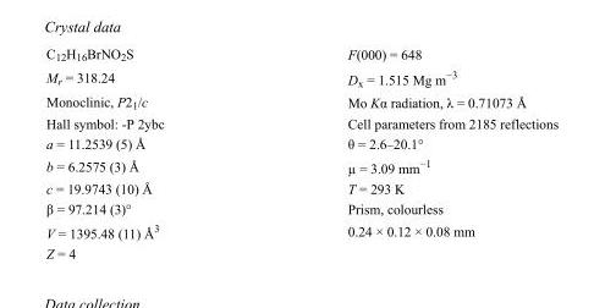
<table><tbody><tr><td>C<sub>12</sub>H<sub>16</sub>BrNO<sub>2</sub>S</td><td>F(000) = 648</td></tr><tr><td>M<sub>r</sub> = 318.24</td><td>D<sub>x</sub> = 1.515 Mg m<sup>−3</sup></td></tr><tr><td>Monoclinic, P2<sub>1</sub>/c</td><td>Mo Kα radiation, λ = 0.71073 Å</td></tr><tr><td>Hall symbol: -P 2ybc</td><td>Cell parameters from 2185 reflections</td></tr><tr><td>a = 11.2539 (5) Å</td><td>θ = 2.6–20.1°</td></tr><tr><td>b = 6.2575 (3) Å</td><td>µ = 3.09 mm<sup>−1</sup></td></tr><tr><td>c = 19.9743 (10) Å</td><td>T = 293 K</td></tr><tr><td>β = 97.214 (3)°</td><td>Prism, colourless</td></tr><tr><td>V = 1395.48 (11) Å<sup>3</sup></td><td>0.24 × 0.12 × 0.08 mm</td></tr><tr><td>Z = 4</td><td></td></tr></tbody></table>